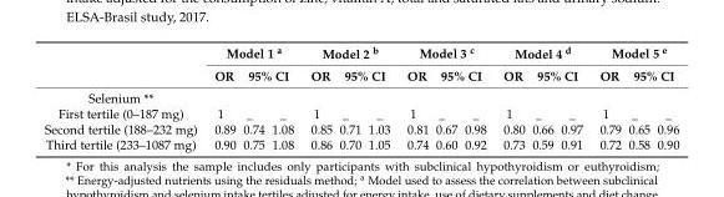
<table><thead><tr><td rowspan="3">Selenium **</td><td colspan="3">Model 1 <sup>a</sup></td><td colspan="3">Model 2 <sup>b</sup></td><td colspan="3">Model 3 <sup>c</sup></td><td colspan="3">Model 4 <sup>d</sup></td><td colspan="3">Model 5 <sup>e</sup></td></tr><tr><td rowspan="2">OR</td><td colspan="2">95% CI</td><td rowspan="2">OR</td><td colspan="2">95% CI</td><td rowspan="2">OR</td><td colspan="2">95% CI</td><td rowspan="2">OR</td><td colspan="2">95% CI</td><td rowspan="2">OR</td><td colspan="2">95% CI</td></tr><tr><td></td><td></td><td></td><td></td><td></td><td></td><td></td><td></td><td></td><td></td></tr></thead><tbody><tr><td>First tertile (0–187 mg)</td><td>1</td><td>_</td><td>_</td><td>1</td><td>_</td><td>_</td><td>1</td><td>_</td><td>_</td><td>1</td><td>_</td><td>_</td><td>1</td><td>_</td><td>_</td></tr><tr><td>Second tertile (188–232 mg)</td><td>0.89</td><td>0.74</td><td>1.08</td><td>0.85</td><td>0.71</td><td>1.03</td><td>0.81</td><td>0.67</td><td>0.98</td><td>0.80</td><td>0.66</td><td>0.97</td><td>0.79</td><td>0.65</td><td>0.96</td></tr><tr><td>Third tertile (233–1087 mg)</td><td>0.90</td><td>0.75</td><td>1.08</td><td>0.86</td><td>0.70</td><td>1.05</td><td>0.74</td><td>0.60</td><td>0.92</td><td>0.73</td><td>0.59</td><td>0.91</td><td>0.72</td><td>0.58</td><td>0.90</td></tr></tbody></table>